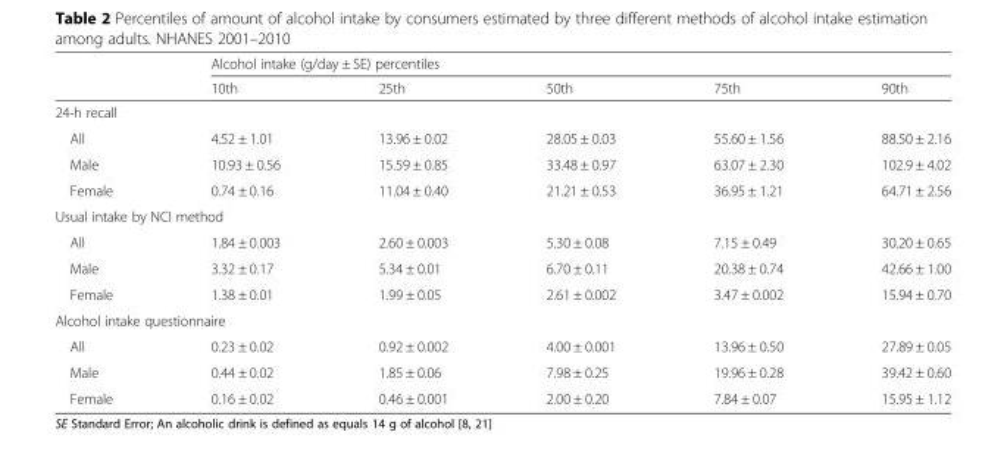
<table><thead><tr><td rowspan="2"></td><td colspan="5">Alcohol intake (g/day ± SE) percentiles</td></tr><tr><td>10th</td><td>25th</td><td>50th</td><td>75th</td><td>90th</td></tr></thead><tbody><tr><td colspan="6">24-h recall</td></tr><tr><td>All</td><td>4.52 ± 1.01</td><td>13.96 ± 0.02</td><td>28.05 ± 0.03</td><td>55.60 ± 1.56</td><td>88.50 ± 2.16</td></tr><tr><td>Male</td><td>10.93 ± 0.56</td><td>15.59 ± 0.85</td><td>33.48 ± 0.97</td><td>63.07 ± 2.30</td><td>102.9 ± 4.02</td></tr><tr><td>Female</td><td>0.74 ± 0.16</td><td>11.04 ± 0.40</td><td>21.21 ± 0.53</td><td>36.95 ± 1.21</td><td>64.71 ± 2.56</td></tr><tr><td colspan="6">Usual intake by NCI method</td></tr><tr><td>All</td><td>1.84 ± 0.003</td><td>2.60 ± 0.003</td><td>5.30 ± 0.08</td><td>7.15 ± 0.49</td><td>30.20 ± 0.65</td></tr><tr><td>Male</td><td>3.32 ± 0.17</td><td>5.34 ± 0.01</td><td>6.70 ± 0.11</td><td>20.38 ± 0.74</td><td>42.66 ± 1.00</td></tr><tr><td>Female</td><td>1.38 ± 0.01</td><td>1.99 ± 0.05</td><td>2.61 ± 0.002</td><td>3.47 ± 0.002</td><td>15.94 ± 0.70</td></tr><tr><td colspan="6">Alcohol intake questionnaire</td></tr><tr><td>All</td><td>0.23 ± 0.02</td><td>0.92 ± 0.002</td><td>4.00 ± 0.001</td><td>13.96 ± 0.50</td><td>27.89 ± 0.05</td></tr><tr><td>Male</td><td>0.44 ± 0.02</td><td>1.85 ± 0.06</td><td>7.98 ± 0.25</td><td>19.96 ± 0.28</td><td>39.42 ± 0.60</td></tr><tr><td>Female</td><td>0.16 ± 0.02</td><td>0.46 ± 0.001</td><td>2.00 ± 0.20</td><td>7.84 ± 0.07</td><td>15.95 ± 1.12</td></tr></tbody></table>